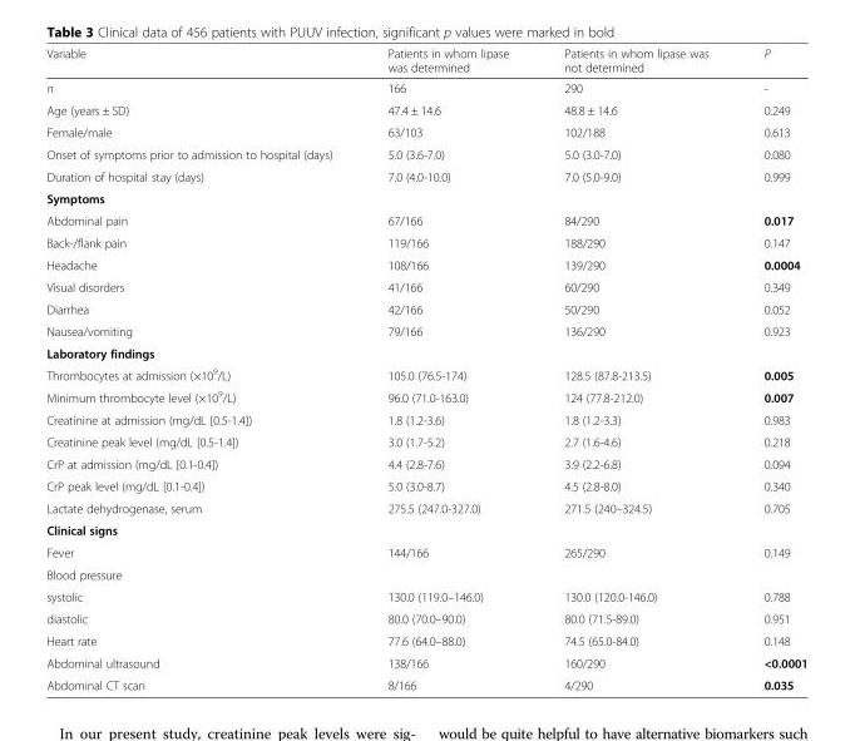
<table><thead><tr><td>Variable</td><td>Patients in whom lipase was determined</td><td>Patients in whom lipase was not determined</td><td>P</td></tr></thead><tbody><tr><td>n</td><td>166</td><td>290</td><td>-</td></tr><tr><td>Age (years ± SD)</td><td>47.4 ± 14.6</td><td>48.8 ± 14.6</td><td>0.249</td></tr><tr><td>Female/male</td><td>63/103</td><td>102/188</td><td>0.613</td></tr><tr><td>Onset of symptoms prior to admission to hospital (days)</td><td>5.0 (3.6-7.0)</td><td>5.0 (3.0-7.0)</td><td>0.080</td></tr><tr><td>Duration of hospital stay (days)</td><td>7.0 (4.0-10.0)</td><td>7.0 (5.0-9.0)</td><td>0.999</td></tr><tr><td colspan="4">Symptoms</td></tr><tr><td>Abdominal pain</td><td>67/166</td><td>84/290</td><td>0.017</td></tr><tr><td>Back-/flank pain</td><td>119/166</td><td>188/290</td><td>0.147</td></tr><tr><td>Headache</td><td>108/166</td><td>139/290</td><td>0.0004</td></tr><tr><td>Visual disorders</td><td>41/166</td><td>60/290</td><td>0.349</td></tr><tr><td>Diarrhea</td><td>42/166</td><td>50/290</td><td>0.052</td></tr><tr><td>Nausea/vomiting</td><td>79/166</td><td>136/290</td><td>0.923</td></tr><tr><td colspan="4">Laboratory findings</td></tr><tr><td>Thrombocytes at admission (×10<sup>9</sup>/L)</td><td>105.0 (76.5-174)</td><td>128.5 (87.8-213.5)</td><td>0.005</td></tr><tr><td>Minimum thrombocyte level (×10<sup>9</sup>/L)</td><td>96.0 (71.0-163.0)</td><td>124 (77.8-212.0)</td><td>0.007</td></tr><tr><td>Creatinine at admission (mg/dL [0.5-1.4])</td><td>1.8 (1.2-3.6)</td><td>1.8 (1.2-3.3)</td><td>0.983</td></tr><tr><td>Creatinine peak level (mg/dL [0.5-1.4])</td><td>3.0 (1.7-5.2)</td><td>2.7 (1.6-4.6)</td><td>0.218</td></tr><tr><td>CrP at admission (mg/dL [0.1-0.4])</td><td>4.4 (2.8-7.6)</td><td>3.9 (2.2-6.8)</td><td>0.094</td></tr><tr><td>CrP peak level (mg/dL [0.1-0.4])</td><td>5.0 (3.0-8.7)</td><td>4.5 (2.8-8.0)</td><td>0.340</td></tr><tr><td>Lactate dehydrogenase, serum</td><td>275.5 (247.0-327.0)</td><td>271.5 (240–324.5)</td><td>0.705</td></tr><tr><td colspan="4">Clinical signs</td></tr><tr><td>Fever</td><td>144/166</td><td>265/290</td><td>0.149</td></tr><tr><td colspan="4">Blood pressure</td></tr><tr><td>systolic</td><td>130.0 (119.0–146.0)</td><td>130.0 (120.0-146.0)</td><td>0.788</td></tr><tr><td>diastolic</td><td>80.0 (70.0–90.0)</td><td>80.0 (71.5-89.0)</td><td>0.951</td></tr><tr><td>Heart rate</td><td>77.6 (64.0–88.0)</td><td>74.5 (65.0-84.0)</td><td>0.148</td></tr><tr><td>Abdominal ultrasound</td><td>138/166</td><td>160/290</td><td>&lt;0.0001</td></tr><tr><td>Abdominal CT scan</td><td>8/166</td><td>4/290</td><td>0.035</td></tr></tbody></table>